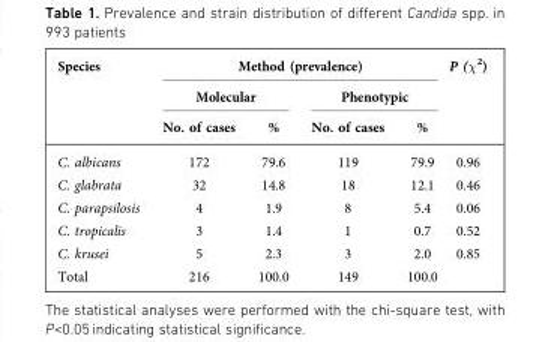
<table><thead><tr><td rowspan="3">Species</td><td colspan="4">Method (prevalence)</td><td rowspan="3">P (χ<sup>2</sup>)</td></tr><tr><td colspan="2">Molecular</td><td colspan="2">Phenotypic</td></tr><tr><td>No. of cases</td><td>%</td><td>No. of cases</td><td>%</td></tr></thead><tbody><tr><td>C. albicans</td><td>172</td><td>79.6</td><td>119</td><td>79.9</td><td>0.96</td></tr><tr><td>C. glabrata</td><td>32</td><td>14.8</td><td>18</td><td>12.1</td><td>0.46</td></tr><tr><td>C. parapsilosis</td><td>4</td><td>1.9</td><td>8</td><td>5.4</td><td>0.06</td></tr><tr><td>C. tropicalis</td><td>3</td><td>1.4</td><td>1</td><td>0.7</td><td>0.52</td></tr><tr><td>C. krusei</td><td>5</td><td>2.3</td><td>3</td><td>2.0</td><td>0.85</td></tr><tr><td>Total</td><td>216</td><td>100.0</td><td>149</td><td>100.0</td><td></td></tr></tbody></table>